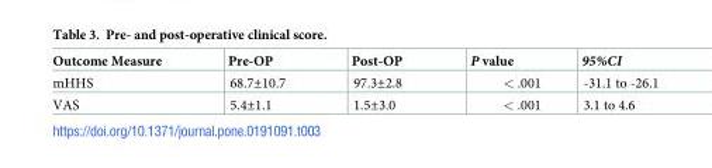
<table><thead><tr><td>Outcome Measure</td><td>Pre-OP</td><td>Post-OP</td><td>P value</td><td>95%CI</td></tr></thead><tbody><tr><td>mHHS</td><td>68.7±10.7</td><td>97.3±2.8</td><td>&lt; .001</td><td>-31.1 to -26.1</td></tr><tr><td>VAS</td><td>5.4±1.1</td><td>1.5±3.0</td><td>&lt; .001</td><td>3.1 to 4.6</td></tr></tbody></table>